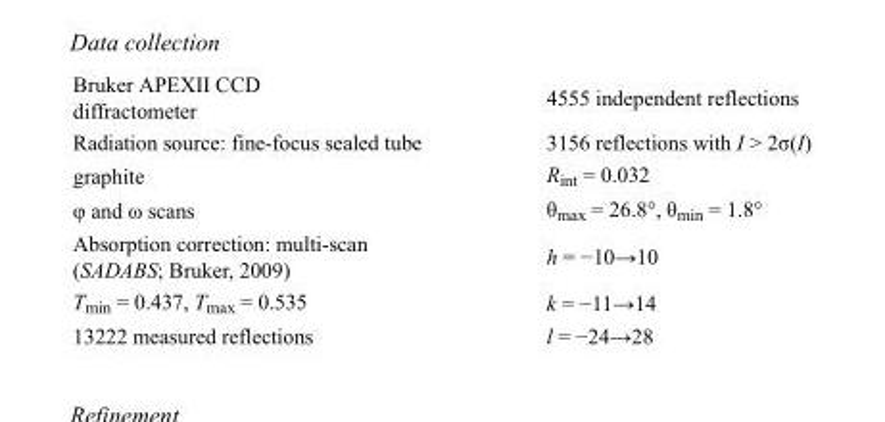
<table><tbody><tr><td>Bruker APEXII CCD diffractometer</td><td>4555 independent reflections</td></tr><tr><td>Radiation source: fine-focus sealed tube</td><td>3156 reflections with I &gt; 2σ(I)</td></tr><tr><td>graphite</td><td>R<sub>int</sub> = 0.032</td></tr><tr><td>φ and ω scans</td><td>θ<sub>max</sub> = 26.8°, θ<sub>min</sub> = 1.8°</td></tr><tr><td>Absorption correction: multi-scan (SADABS; Bruker, 2009)</td><td>h = −10→10</td></tr><tr><td>T<sub>min</sub> = 0.437, T<sub>max</sub> = 0.535</td><td>k = −11→14</td></tr><tr><td>13222 measured reflections</td><td>l = −24→28</td></tr></tbody></table>